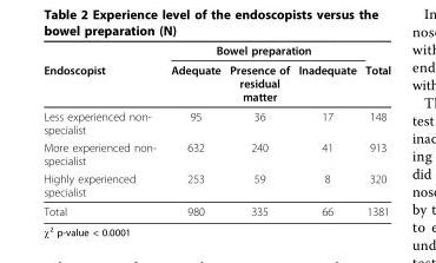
<table><thead><tr><td rowspan="2">Endoscopist</td><td colspan="3">Bowel preparation</td><td rowspan="2">Total</td></tr><tr><td>Adequate</td><td>Presence of residual matter</td><td>Inadequate</td></tr></thead><tbody><tr><td>Less experienced non- specialist</td><td>95</td><td>36</td><td>17</td><td>148</td></tr><tr><td>More experienced non- specialist</td><td>632</td><td>240</td><td>41</td><td>913</td></tr><tr><td>Highly experienced specialist</td><td>253</td><td>59</td><td>8</td><td>320</td></tr><tr><td>Total</td><td>980</td><td>335</td><td>66</td><td>1381</td></tr></tbody></table>